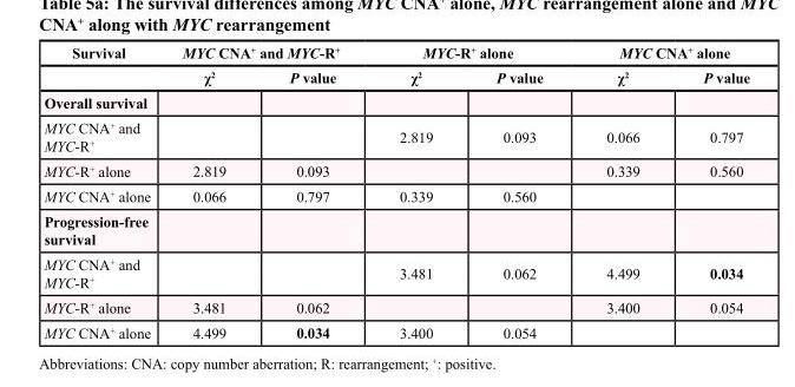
<table><thead><tr><td rowspan="2">Survival</td><td colspan="2">MYC CNA<sup>+</sup> and MYC-R<sup>+</sup></td><td colspan="2">MYC-R<sup>+</sup> alone</td><td colspan="2">MYC CNA<sup>+</sup> alone</td></tr><tr><td>χ<sup>2</sup></td><td>P value</td><td>χ<sup>2</sup></td><td>P value</td><td>χ<sup>2</sup></td><td>P value</td></tr></thead><tbody><tr><td colspan="7">Overall survival</td></tr><tr><td>MYC CNA<sup>+</sup> and MYC-R<sup>+</sup></td><td></td><td></td><td>2.819</td><td>0.093</td><td>0.066</td><td>0.797</td></tr><tr><td>MYC-R<sup>+</sup> alone</td><td>2.819</td><td>0.093</td><td></td><td></td><td>0.339</td><td>0.560</td></tr><tr><td>MYC CNA<sup>+</sup> alone</td><td>0.066</td><td>0.797</td><td>0.339</td><td>0.560</td><td></td><td></td></tr><tr><td colspan="7">Progression-free survival</td></tr><tr><td>MYC CNA<sup>+</sup> and MYC-R<sup>+</sup></td><td></td><td></td><td>3.481</td><td>0.062</td><td>4.499</td><td>0.034</td></tr><tr><td>MYC-R<sup>+</sup> alone</td><td>3.481</td><td>0.062</td><td></td><td></td><td>3.400</td><td>0.054</td></tr><tr><td>MYC CNA<sup>+</sup> alone</td><td>4.499</td><td>0.034</td><td>3.400</td><td>0.054</td><td></td><td></td></tr></tbody></table>